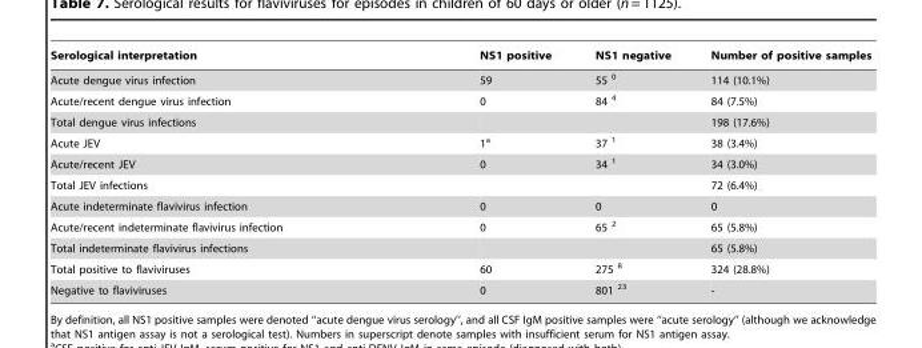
<table><thead><tr><td>Serological interpretation</td><td>NS1 positive</td><td>NS1 negative</td><td>Number of positive samples</td></tr></thead><tbody><tr><td>Acute dengue virus infection</td><td>59</td><td>55 <sup>0</sup></td><td>114 (10.1%)</td></tr><tr><td>Acute/recent dengue virus infection</td><td>0</td><td>84 <sup>4</sup></td><td>84 (7.5%)</td></tr><tr><td>Total dengue virus infections</td><td></td><td></td><td>198 (17.6%)</td></tr><tr><td>Acute JEV</td><td>1<sup>a</sup></td><td>37 <sup>1</sup></td><td>38 (3.4%)</td></tr><tr><td>Acute/recent JEV</td><td>0</td><td>34 <sup>1</sup></td><td>34 (3.0%)</td></tr><tr><td>Total JEV infections</td><td></td><td></td><td>72 (6.4%)</td></tr><tr><td>Acute indeterminate flavivirus infection</td><td>0</td><td>0</td><td>0</td></tr><tr><td>Acute/recent indeterminate flavivirus infection</td><td>0</td><td>65 <sup>2</sup></td><td>65 (5.8%)</td></tr><tr><td>Total indeterminate flavivirus infections</td><td></td><td></td><td>65 (5.8%)</td></tr><tr><td>Total positive to flaviviruses</td><td>60</td><td>275 <sup>8</sup></td><td>324 (28.8%)</td></tr><tr><td>Negative to flaviviruses</td><td>0</td><td>801 <sup>23</sup></td><td>-</td></tr></tbody></table>